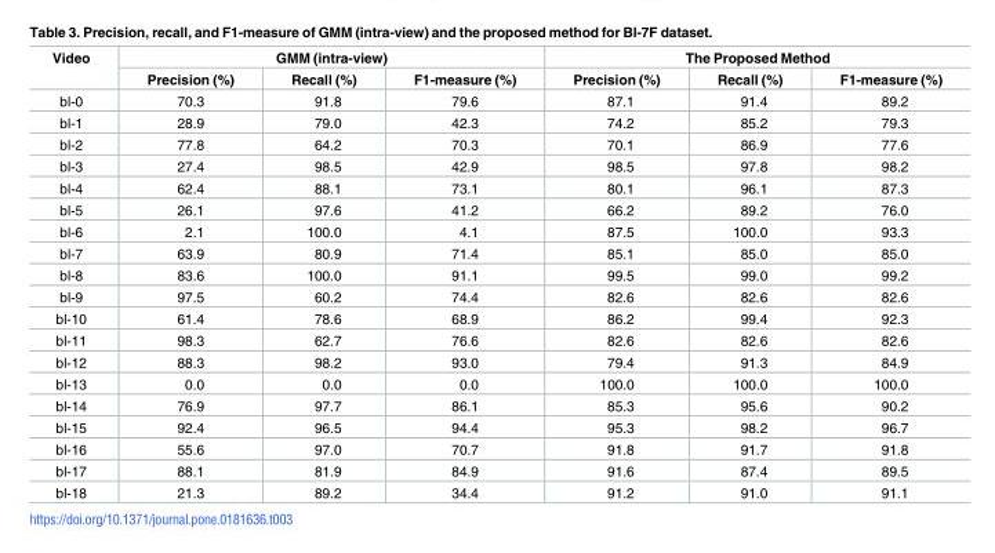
<table><thead><tr><td rowspan="2">Video</td><td colspan="3">GMM (intra-view)</td><td colspan="3">The Proposed Method</td></tr><tr><td>Precision (%)</td><td>Recall (%)</td><td>F1-measure (%)</td><td>Precision (%)</td><td>Recall (%)</td><td>F1-measure (%)</td></tr></thead><tbody><tr><td>bl-0</td><td>70.3</td><td>91.8</td><td>79.6</td><td>87.1</td><td>91.4</td><td>89.2</td></tr><tr><td>bl-1</td><td>28.9</td><td>79.0</td><td>42.3</td><td>74.2</td><td>85.2</td><td>79.3</td></tr><tr><td>bl-2</td><td>77.8</td><td>64.2</td><td>70.3</td><td>70.1</td><td>86.9</td><td>77.6</td></tr><tr><td>bl-3</td><td>27.4</td><td>98.5</td><td>42.9</td><td>98.5</td><td>97.8</td><td>98.2</td></tr><tr><td>bl-4</td><td>62.4</td><td>88.1</td><td>73.1</td><td>80.1</td><td>96.1</td><td>87.3</td></tr><tr><td>bl-5</td><td>26.1</td><td>97.6</td><td>41.2</td><td>66.2</td><td>89.2</td><td>76.0</td></tr><tr><td>bl-6</td><td>2.1</td><td>100.0</td><td>4.1</td><td>87.5</td><td>100.0</td><td>93.3</td></tr><tr><td>bl-7</td><td>63.9</td><td>80.9</td><td>71.4</td><td>85.1</td><td>85.0</td><td>85.0</td></tr><tr><td>bl-8</td><td>83.6</td><td>100.0</td><td>91.1</td><td>99.5</td><td>99.0</td><td>99.2</td></tr><tr><td>bl-9</td><td>97.5</td><td>60.2</td><td>74.4</td><td>82.6</td><td>82.6</td><td>82.6</td></tr><tr><td>bl-10</td><td>61.4</td><td>78.6</td><td>68.9</td><td>86.2</td><td>99.4</td><td>92.3</td></tr><tr><td>bl-11</td><td>98.3</td><td>62.7</td><td>76.6</td><td>82.6</td><td>82.6</td><td>82.6</td></tr><tr><td>bl-12</td><td>88.3</td><td>98.2</td><td>93.0</td><td>79.4</td><td>91.3</td><td>84.9</td></tr><tr><td>bl-13</td><td>0.0</td><td>0.0</td><td>0.0</td><td>100.0</td><td>100.0</td><td>100.0</td></tr><tr><td>bl-14</td><td>76.9</td><td>97.7</td><td>86.1</td><td>85.3</td><td>95.6</td><td>90.2</td></tr><tr><td>bl-15</td><td>92.4</td><td>96.5</td><td>94.4</td><td>95.3</td><td>98.2</td><td>96.7</td></tr><tr><td>bl-16</td><td>55.6</td><td>97.0</td><td>70.7</td><td>91.8</td><td>91.7</td><td>91.8</td></tr><tr><td>bl-17</td><td>88.1</td><td>81.9</td><td>84.9</td><td>91.6</td><td>87.4</td><td>89.5</td></tr><tr><td>bl-18</td><td>21.3</td><td>89.2</td><td>34.4</td><td>91.2</td><td>91.0</td><td>91.1</td></tr></tbody></table>